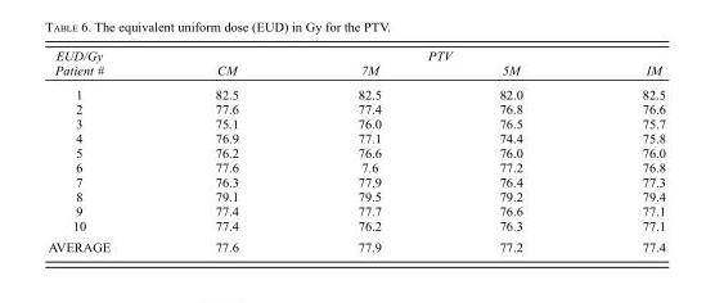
<table><thead><tr><td rowspan="2">EUD/Gy Patient #</td><td colspan="4">PTV</td></tr><tr><td>CM</td><td>7M</td><td>5M</td><td>IM</td></tr></thead><tbody><tr><td>1</td><td>82.5</td><td>82.5</td><td>82.0</td><td>82.5</td></tr><tr><td>2</td><td>77.6</td><td>77.4</td><td>76.8</td><td>76.6</td></tr><tr><td>3</td><td>75.1</td><td>76.0</td><td>76.5</td><td>75.7</td></tr><tr><td>4</td><td>76.9</td><td>77.1</td><td>74.4</td><td>75.8</td></tr><tr><td>5</td><td>76.2</td><td>76.6</td><td>76.0</td><td>76.0</td></tr><tr><td>6</td><td>77.6</td><td>7.6</td><td>77.2</td><td>76.8</td></tr><tr><td>7</td><td>76.3</td><td>77.9</td><td>76.4</td><td>77.3</td></tr><tr><td>8</td><td>79.1</td><td>79.5</td><td>79.2</td><td>79.4</td></tr><tr><td>9</td><td>77.4</td><td>77.7</td><td>76.6</td><td>77.1</td></tr><tr><td>10</td><td>77.4</td><td>76.2</td><td>76.3</td><td>77.1</td></tr><tr><td>AVERAGE</td><td>77.6</td><td>77.9</td><td>77.2</td><td>77.4</td></tr></tbody></table>